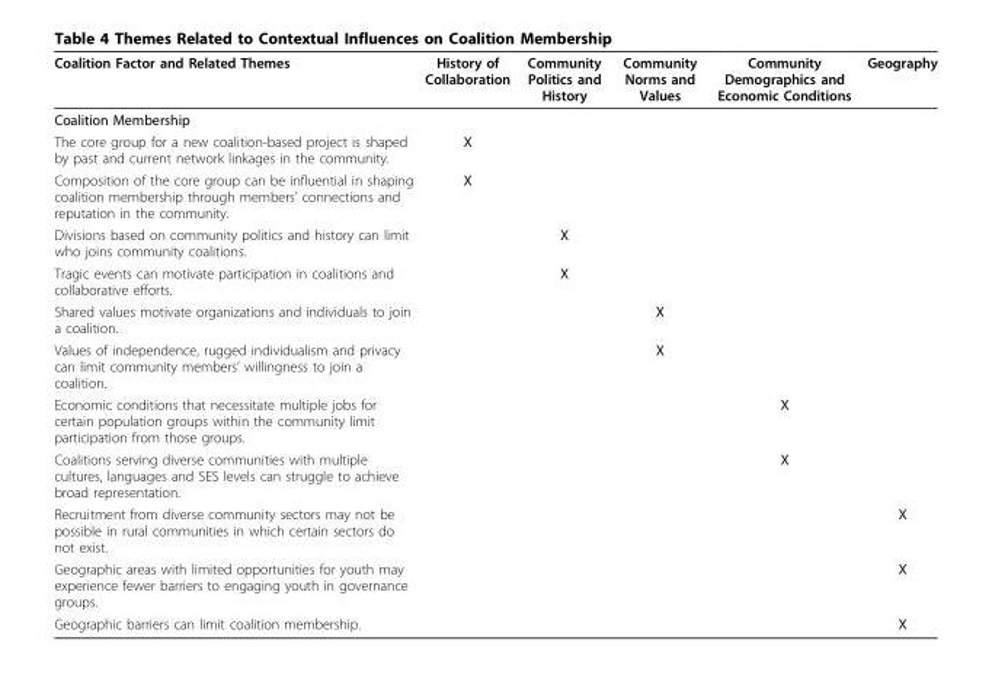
<table><thead><tr><td>Coalition Factor and Related Themes</td><td>History of Collaboration</td><td>Community Politics and History</td><td>Community Norms and Values</td><td>Community Demographics and Economic Conditions</td><td>Geography</td></tr></thead><tbody><tr><td colspan="6">Coalition Membership</td></tr><tr><td>The core group for a new coalition-based project is shaped by past and current network linkages in the community.</td><td>X</td><td></td><td></td><td></td><td></td></tr><tr><td>Composition of the core group can be influential in shaping coalition membership through members’ connections and reputation in the community.</td><td>X</td><td></td><td></td><td></td><td></td></tr><tr><td>Divisions based on community politics and history can limit who joins community coalitions.</td><td></td><td>X</td><td></td><td></td><td></td></tr><tr><td>Tragic events can motivate participation in coalitions and collaborative efforts.</td><td></td><td>X</td><td></td><td></td><td></td></tr><tr><td>Shared values motivate organizations and individuals to join a coalition.</td><td></td><td></td><td>X</td><td></td><td></td></tr><tr><td>Values of independence, rugged individualism and privacy can limit community members’ willingness to join a coalition.</td><td></td><td></td><td>X</td><td></td><td></td></tr><tr><td>Economic conditions that necessitate multiple jobs for certain population groups within the community limit participation from those groups.</td><td></td><td></td><td></td><td>X</td><td></td></tr><tr><td>Coalitions serving diverse communities with multiple cultures, languages and SES levels can struggle to achieve broad representation.</td><td></td><td></td><td></td><td>X</td><td></td></tr><tr><td>Recruitment from diverse community sectors may not be possible in rural communities in which certain sectors do not exist.</td><td></td><td></td><td></td><td></td><td>X</td></tr><tr><td>Geographic areas with limited opportunities for youth may experience fewer barriers to engaging youth in governance groups.</td><td></td><td></td><td></td><td></td><td>X</td></tr><tr><td>Geographic barriers can limit coalition membership.</td><td></td><td></td><td></td><td></td><td>X</td></tr></tbody></table>